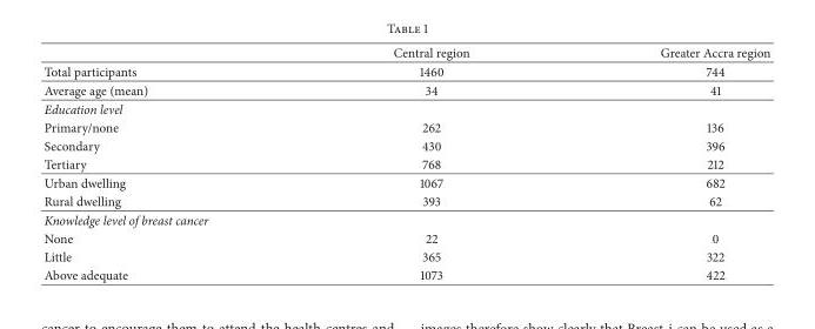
<table><thead><tr><td></td><td>Central region</td><td>Greater Accra region</td></tr></thead><tbody><tr><td>Total participants</td><td>1460</td><td>744</td></tr><tr><td>Average age (mean)</td><td>34</td><td>41</td></tr><tr><td colspan="3">Education level</td></tr><tr><td>Primary/none</td><td>262</td><td>136</td></tr><tr><td>Secondary</td><td>430</td><td>396</td></tr><tr><td>Tertiary</td><td>768</td><td>212</td></tr><tr><td>Urban dwelling</td><td>1067</td><td>682</td></tr><tr><td>Rural dwelling</td><td>393</td><td>62</td></tr><tr><td colspan="3">Knowledge level of breast cancer</td></tr><tr><td>None</td><td>22</td><td>0</td></tr><tr><td>Little</td><td>365</td><td>322</td></tr><tr><td>Above adequate</td><td>1073</td><td>422</td></tr></tbody></table>